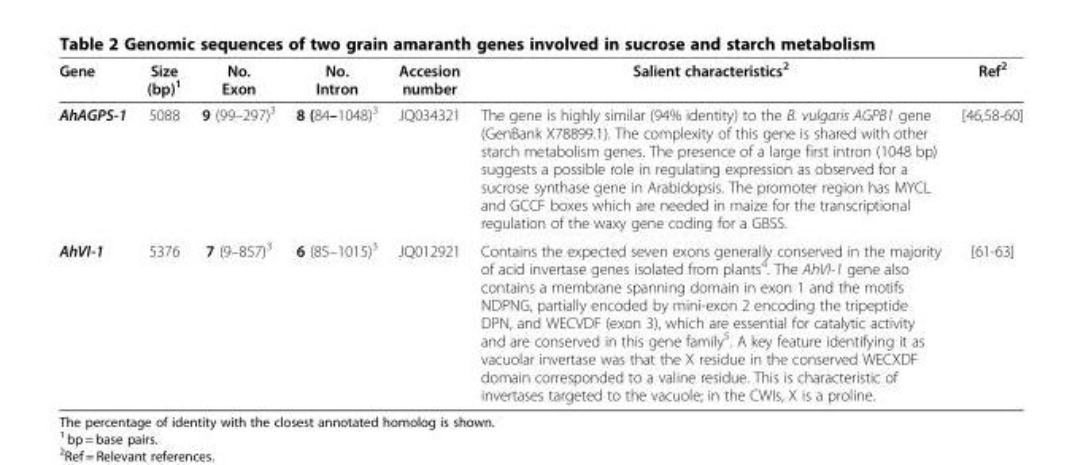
<table><thead><tr><td>Gene</td><td>Size (bp)<sup>1</sup></td><td>No. Exon</td><td>No. Intron</td><td>Accesion number</td><td>Salient characteristics<sup>2</sup></td><td>Ref<sup>2</sup></td></tr></thead><tbody><tr><td>AhAGPS-1</td><td>5088</td><td>9 (99–297)<sup>3</sup></td><td>8 (84–1048)<sup>3</sup></td><td>JQ034321</td><td>The gene is highly similar (94% identity) to the B. vulgaris AGPB1 gene (GenBank X78899.1). The complexity of this gene is shared with other starch metabolism genes. The presence of a large first intron (1048 bp) suggests a possible role in regulating expression as observed for a sucrose synthase gene in Arabidopsis. The promoter region has MYCL and GCCF boxes which are needed in maize for the transcriptional regulation of the waxy gene coding for a GBSS.</td><td>[46,58-60]</td></tr><tr><td>AhVI-1</td><td>5376</td><td>7 (9–857)<sup>3</sup></td><td>6 (85–1015)<sup>3</sup></td><td>JQ012921</td><td>Contains the expected seven exons generally conserved in the majority of acid invertase genes isolated from plants<sup>4</sup>. The AhVI-1 gene also contains a membrane spanning domain in exon 1 and the motifs NDPNG, partially encoded by mini-exon 2 encoding the tripeptide DPN, and WECVDF (exon 3), which are essential for catalytic activity and are conserved in this gene family<sup>5</sup>. A key feature identifying it as vacuolar invertase was that the X residue in the conserved WECXDF domain corresponded to a valine residue. This is characteristic of invertases targeted to the vacuole; in the CWIs, X is a proline.</td><td>[61-63]</td></tr></tbody></table>